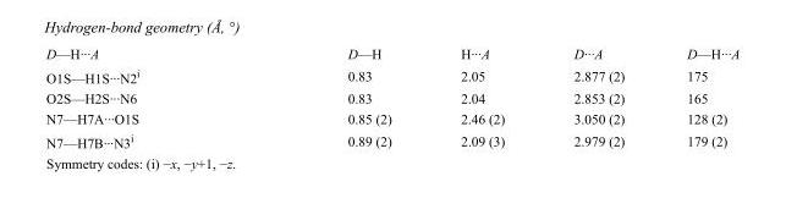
<table><tbody><tr><td>D—H···A</td><td>D—H</td><td>H···A</td><td>D···A</td><td>D—H···A</td></tr><tr><td>O1S—H1S···N2<sup>i</sup></td><td>0.83</td><td>2.05</td><td>2.877 (2)</td><td>175</td></tr><tr><td>O2S—H2S···N6</td><td>0.83</td><td>2.04</td><td>2.853 (2)</td><td>165</td></tr><tr><td>N7—H7A···O1S</td><td>0.85 (2)</td><td>2.46 (2)</td><td>3.050 (2)</td><td>128 (2)</td></tr><tr><td>N7—H7B···N3<sup>i</sup></td><td>0.89 (2)</td><td>2.09 (3)</td><td>2.979 (2)</td><td>179 (2)</td></tr></tbody></table>